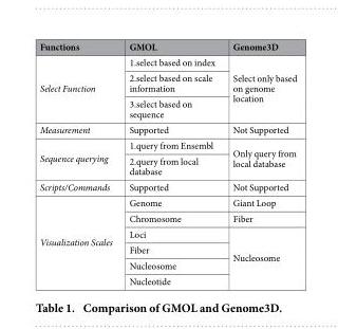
<table><thead><tr><td>Functions</td><td>GMOL</td><td>Genome3D</td></tr></thead><tbody><tr><td rowspan="3">Select Function</td><td>1.select based on index</td><td rowspan="3">Select only based on genome location</td></tr><tr><td>2.select based on scale information</td></tr><tr><td>3.select based on sequence</td></tr><tr><td>Measurement</td><td>Supported</td><td>Not Supported</td></tr><tr><td rowspan="2">Sequence querying</td><td>1.query from Ensembl</td><td rowspan="2">Only query from local database</td></tr><tr><td>2.query from local database</td></tr><tr><td>Scripts/Commands</td><td>Supported</td><td>Not Supported</td></tr><tr><td rowspan="6">Visualization Scales</td><td>Genome</td><td>Giant Loop</td></tr><tr><td>Chromosome</td><td>Fiber</td></tr><tr><td>Loci</td><td rowspan="4">Nucleosome</td></tr><tr><td>Fiber</td></tr><tr><td>Nucleosome</td></tr><tr><td>Nucleotide</td></tr></tbody></table>